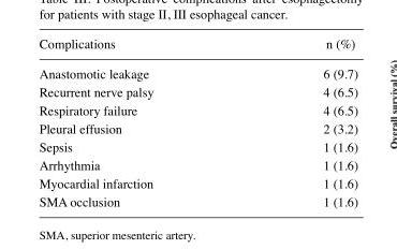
<table><thead><tr><td>Complications</td><td>n (%)</td></tr></thead><tbody><tr><td>Anastomotic leakage</td><td>6 (9.7)</td></tr><tr><td>Recurrent nerve palsy</td><td>4 (6.5)</td></tr><tr><td>Respiratory failure</td><td>4 (6.5)</td></tr><tr><td>Pleural effusion</td><td>2 (3.2)</td></tr><tr><td>Sepsis</td><td>1 (1.6)</td></tr><tr><td>Arrhythmia</td><td>1 (1.6)</td></tr><tr><td>Myocardial infarction</td><td>1 (1.6)</td></tr><tr><td>SMA occlusion</td><td>1 (1.6)</td></tr></tbody></table>